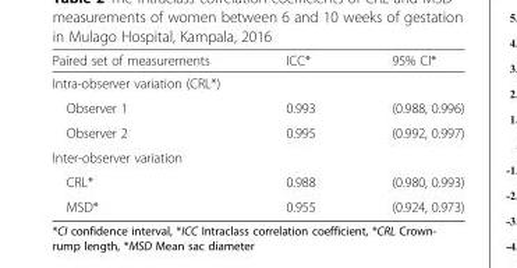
<table><thead><tr><td>Paired set of measurements</td><td>ICC*</td><td>95% CI*</td></tr></thead><tbody><tr><td colspan="3">Intra-observer variation (CRL*)</td></tr><tr><td>Observer 1</td><td>0.993</td><td>(0.988, 0.996)</td></tr><tr><td>Observer 2</td><td>0.995</td><td>(0.992, 0.997)</td></tr><tr><td colspan="3">Inter-observer variation</td></tr><tr><td>CRL*</td><td>0.988</td><td>(0.980, 0.993)</td></tr><tr><td>MSD*</td><td>0.955</td><td>(0.924, 0.973)</td></tr></tbody></table>